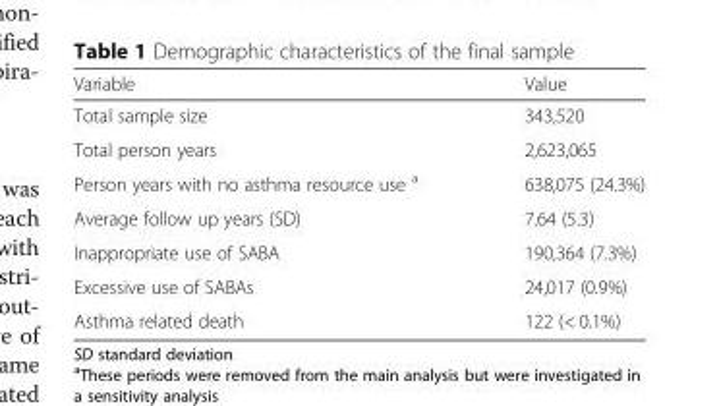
<table><thead><tr><td>Variable</td><td>Value</td></tr></thead><tbody><tr><td>Total sample size</td><td>343,520</td></tr><tr><td>Total person years</td><td>2,623,065</td></tr><tr><td>Person years with no asthma resource use <sup>a</sup></td><td>638,075 (24.3%)</td></tr><tr><td>Average follow up years (SD)</td><td>7.64 (5.3)</td></tr><tr><td>Inappropriate use of SABA</td><td>190,364 (7.3%)</td></tr><tr><td>Excessive use of SABAs</td><td>24,017 (0.9%)</td></tr><tr><td>Asthma related death</td><td>122 (&lt; 0.1%)</td></tr></tbody></table>